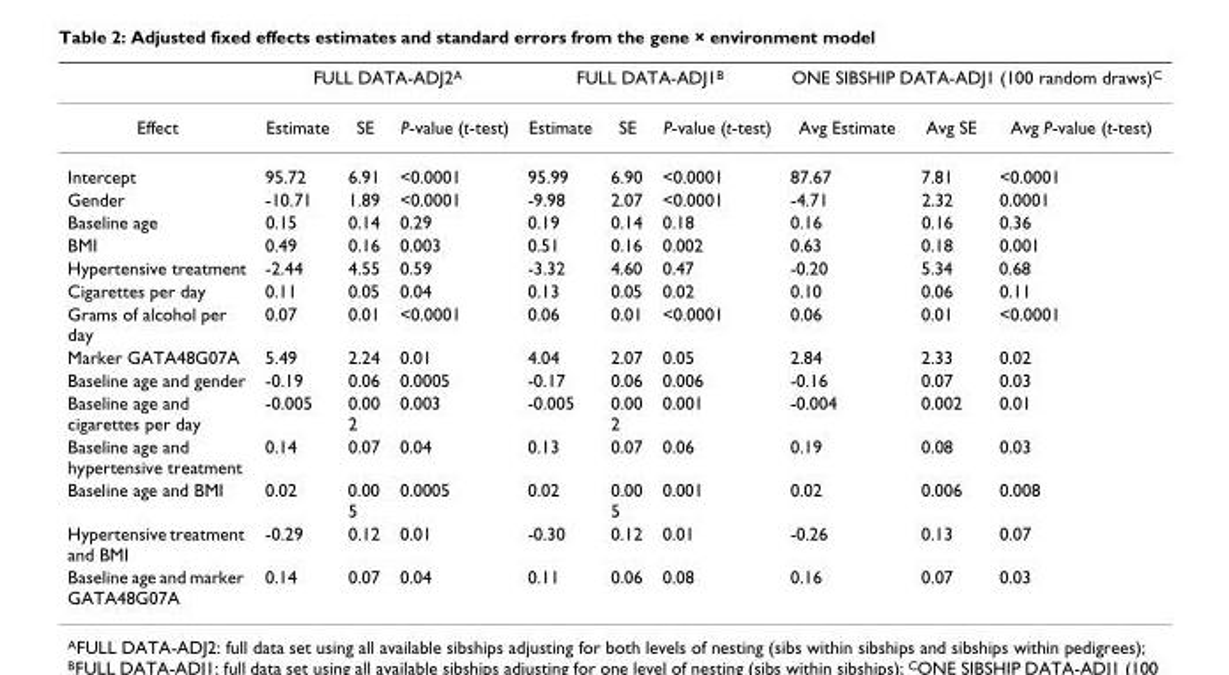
<table><thead><tr><td rowspan="2">Effect</td><td colspan="3">FULL DATA-ADJ2A</td><td colspan="3">FULL DATA-ADJ1B</td><td colspan="3">ONE SIBSHIP DATA-ADJ1 (100 random draws)C</td></tr><tr><td>Estimate</td><td>SE</td><td>P-value (t-test)</td><td>Estimate</td><td>SE</td><td>P-value (t-test)</td><td>Avg Estimate</td><td>Avg SE</td><td>Avg P-value (t-test)</td></tr></thead><tbody><tr><td>Intercept</td><td>95.72</td><td>6.91</td><td>&lt;0.0001</td><td>95.99</td><td>6.90</td><td>&lt;0.0001</td><td>87.67</td><td>7.81</td><td>&lt;0.0001</td></tr><tr><td>Gender</td><td>-10.71</td><td>1.89</td><td>&lt;0.0001</td><td>-9.98</td><td>2.07</td><td>&lt;0.0001</td><td>-4.71</td><td>2.32</td><td>0.0001</td></tr><tr><td>Baseline age</td><td>0.15</td><td>0.14</td><td>0.29</td><td>0.19</td><td>0.14</td><td>0.18</td><td>0.16</td><td>0.16</td><td>0.36</td></tr><tr><td>BMI</td><td>0.49</td><td>0.16</td><td>0.003</td><td>0.51</td><td>0.16</td><td>0.002</td><td>0.63</td><td>0.18</td><td>0.001</td></tr><tr><td>Hypertensive treatment</td><td>-2.44</td><td>4.55</td><td>0.59</td><td>-3.32</td><td>4.60</td><td>0.47</td><td>-0.20</td><td>5.34</td><td>0.68</td></tr><tr><td>Cigarettes per day</td><td>0.11</td><td>0.05</td><td>0.04</td><td>0.13</td><td>0.05</td><td>0.02</td><td>0.10</td><td>0.06</td><td>0.11</td></tr><tr><td>Grams of alcohol per day</td><td>0.07</td><td>0.01</td><td>&lt;0.0001</td><td>0.06</td><td>0.01</td><td>&lt;0.0001</td><td>0.06</td><td>0.01</td><td>&lt;0.0001</td></tr><tr><td>Marker GATA48G07A</td><td>5.49</td><td>2.24</td><td>0.01</td><td>4.04</td><td>2.07</td><td>0.05</td><td>2.84</td><td>2.33</td><td>0.02</td></tr><tr><td>Baseline age and gender</td><td>-0.19</td><td>0.06</td><td>0.0005</td><td>-0.17</td><td>0.06</td><td>0.006</td><td>-0.16</td><td>0.07</td><td>0.03</td></tr><tr><td>Baseline age and cigarettes per day</td><td>-0.005</td><td>0.00 2</td><td>0.003</td><td>-0.005</td><td>0.00 2</td><td>0.001</td><td>-0.004</td><td>0.002</td><td>0.01</td></tr><tr><td>Baseline age and hypertensive treatment</td><td>0.14</td><td>0.07</td><td>0.04</td><td>0.13</td><td>0.07</td><td>0.06</td><td>0.19</td><td>0.08</td><td>0.03</td></tr><tr><td>Baseline age and BMI</td><td>0.02</td><td>0.00 5</td><td>0.0005</td><td>0.02</td><td>0.00 5</td><td>0.001</td><td>0.02</td><td>0.006</td><td>0.008</td></tr><tr><td>Hypertensive treatment and BMI</td><td>-0.29</td><td>0.12</td><td>0.01</td><td>-0.30</td><td>0.12</td><td>0.01</td><td>-0.26</td><td>0.13</td><td>0.07</td></tr><tr><td>Baseline age and marker GATA48G07A</td><td>0.14</td><td>0.07</td><td>0.04</td><td>0.11</td><td>0.06</td><td>0.08</td><td>0.16</td><td>0.07</td><td>0.03</td></tr></tbody></table>